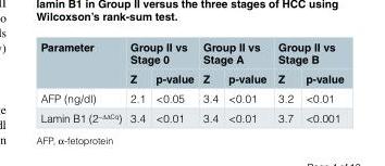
<table><thead><tr><td rowspan="2">Parameter</td><td colspan="2">Group II vs Stage 0</td><td colspan="2">Group II vs Stage A</td><td colspan="2">Group II vs Stage B</td></tr><tr><td>Z</td><td>p-value</td><td>Z</td><td>p-value</td><td>Z</td><td>p-value</td></tr></thead><tbody><tr><td>AFP (ng/dl)</td><td>2.1</td><td>&lt;0.05</td><td>3.4</td><td>&lt;0.01</td><td>3.2</td><td>&lt;0.01</td></tr><tr><td>Lamin B1 (2<sup>−ΔΔCq</sup>)</td><td>3.4</td><td>&lt;0.01</td><td>3.4</td><td>&lt;0.01</td><td>3.7</td><td>&lt;0.001</td></tr></tbody></table>